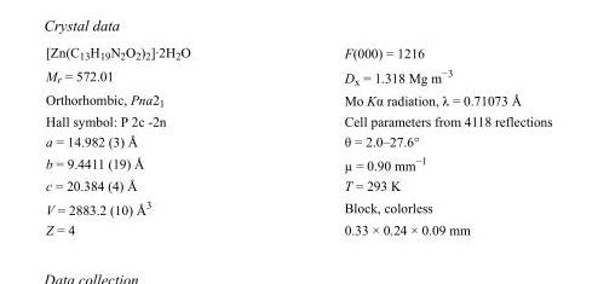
<table><tbody><tr><td>[Zn(C<sub>13</sub>H<sub>19</sub>N<sub>2</sub>O<sub>2</sub>)<sub>2</sub>]·2H<sub>2</sub>O</td><td>F(000) = 1216</td></tr><tr><td>M<sub>r</sub> = 572.01</td><td>D<sub>x</sub> = 1.318 Mg m<sup>−3</sup></td></tr><tr><td>Orthorhombic, Pna2<sub>1</sub></td><td>Mo Kα radiation, λ = 0.71073 Å</td></tr><tr><td>Hall symbol: P 2c -2n</td><td>Cell parameters from 4118 reflections</td></tr><tr><td>a = 14.982 (3) Å</td><td>θ = 2.0–27.6°</td></tr><tr><td>b = 9.4411 (19) Å</td><td>µ = 0.90 mm<sup>−1</sup></td></tr><tr><td>c = 20.384 (4) Å</td><td>T = 293 K</td></tr><tr><td>V = 2883.2 (10) Å<sup>3</sup></td><td>Block, colorless</td></tr><tr><td>Z = 4</td><td>0.33 × 0.24 × 0.09 mm</td></tr></tbody></table>